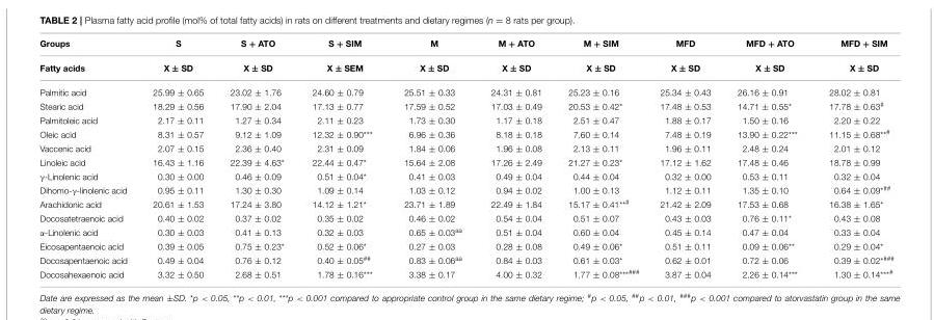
<table><thead><tr><td>Groups</td><td>S</td><td>S + ATO</td><td>S + SIM</td><td>M</td><td>M + ATO</td><td>M + SIM</td><td>MFD</td><td>MFD + ATO</td><td>MFD + SIM</td></tr></thead><tbody><tr><td>Fatty acids</td><td>X ± SD</td><td>X ± SD</td><td>X ± SEM</td><td>X ± SD</td><td>X ± SD</td><td>X ± SD</td><td>X ± SD</td><td>X ± SD</td><td>X ± SD</td></tr><tr><td>Palmitic acid</td><td>25.99 ± 0.65</td><td>23.02 ± 1.76</td><td>24.60 ± 0.79</td><td>25.51 ± 0.33</td><td>24.31 ± 0.81</td><td>25.23 ± 0.16</td><td>25.34 ± 0.43</td><td>26.16 ± 0.91</td><td>28.02 ± 0.81</td></tr><tr><td>Stearic acid</td><td>18.29 ± 0.56</td><td>17.90 ± 2.04</td><td>17.13 ± 0.77</td><td>17.59 ± 0.52</td><td>17.03 ± 0.49</td><td>20.53 ± 0.42*</td><td>17.48 ± 0.53</td><td>14.71 ± 0.55*</td><td>17.78 ± 0.63<sup>#</sup></td></tr><tr><td>Palmitoleic acid</td><td>2.17 ± 0.11</td><td>1.27 ± 0.34</td><td>2.11 ± 0.23</td><td>1.73 ± 0.30</td><td>1.17 ± 0.18</td><td>2.51 ± 0.47</td><td>1.88 ± 0.17</td><td>1.50 ± 0.16</td><td>2.20 ± 0.22</td></tr><tr><td>Oleic acid</td><td>8.31 ± 0.57</td><td>9.12 ± 1.09</td><td>12.32 ± 0.90***</td><td>6.96 ± 0.36</td><td>8.18 ± 0.18</td><td>7.60 ± 0.14</td><td>7.48 ± 0.19</td><td>13.90 ± 0.22***</td><td>11.15 ± 0.68<sup>**#</sup></td></tr><tr><td>Vaccenic acid</td><td>2.07 ± 0.15</td><td>2.36 ± 0.40</td><td>2.31 ± 0.09</td><td>1.84 ± 0.06</td><td>1.96 ± 0.08</td><td>2.13 ± 0.11</td><td>1.96 ± 0.11</td><td>2.48 ± 0.24</td><td>2.01 ± 0.12</td></tr><tr><td>Linoleic acid</td><td>16.43 ± 1.16</td><td>22.39 ± 4.63*</td><td>22.44 ± 0.47*</td><td>15.64 ± 2.08</td><td>17.26 ± 2.49</td><td>21.27 ± 0.23*</td><td>17.12 ± 1.62</td><td>17.48 ± 0.46</td><td>18.78 ± 0.99</td></tr><tr><td>γ-Linolenic acid</td><td>0.30 ± 0.00</td><td>0.46 ± 0.09</td><td>0.51 ± 0.04*</td><td>0.41 ± 0.03</td><td>0.49 ± 0.04</td><td>0.44 ± 0.04</td><td>0.32 ± 0.00</td><td>0.53 ± 0.11</td><td>0.32 ± 0.04</td></tr><tr><td>Dihomo-γ-linolenic acid</td><td>0.95 ± 0.11</td><td>1.30 ± 0.30</td><td>1.09 ± 0.14</td><td>1.03 ± 0.12</td><td>0.94 ± 0.02</td><td>1.00 ± 0.13</td><td>1.12 ± 0.11</td><td>1.35 ± 0.10</td><td>0.64 ± 0.09<sup>*##</sup></td></tr><tr><td>Arachidonic acid</td><td>20.61 ± 1.53</td><td>17.24 ± 3.80</td><td>14.12 ± 1.21*</td><td>23.71 ± 1.89</td><td>22.49 ± 1.84</td><td>15.17 ± 0.41<sup>**#</sup></td><td>21.42 ± 2.09</td><td>17.53 ± 0.68</td><td>16.38 ± 1.65*</td></tr><tr><td>Docosatetraenoic acid</td><td>0.40 ± 0.02</td><td>0.37 ± 0.02</td><td>0.35 ± 0.02</td><td>0.46 ± 0.02</td><td>0.54 ± 0.04</td><td>0.51 ± 0.07</td><td>0.43 ± 0.03</td><td>0.76 ± 0.11*</td><td>0.43 ± 0.08</td></tr><tr><td>α-Linolenic acid</td><td>0.30 ± 0.03</td><td>0.41 ± 0.13</td><td>0.32 ± 0.03</td><td>0.65 ± 0.03<sup>aa</sup></td><td>0.51 ± 0.04</td><td>0.60 ± 0.04</td><td>0.45 ± 0.14</td><td>0.47 ± 0.04</td><td>0.33 ± 0.04</td></tr><tr><td>Eicosapentaenoic acid</td><td>0.39 ± 0.05</td><td>0.75 ± 0.23*</td><td>0.52 ± 0.06*</td><td>0.27 ± 0.03</td><td>0.28 ± 0.08</td><td>0.49 ± 0.06*</td><td>0.51 ± 0.11</td><td>0.09 ± 0.06**</td><td>0.29 ± 0.04*</td></tr><tr><td>Docosapentaenoic acid</td><td>0.49 ± 0.04</td><td>0.76 ± 0.12</td><td>0.40 ± 0.05<sup>##</sup></td><td>0.83 ± 0.06<sup>aa</sup></td><td>0.84 ± 0.03</td><td>0.61 ± 0.03*</td><td>0.62 ± 0.01</td><td>0.72 ± 0.06</td><td>0.39 ± 0.02<sup>*###</sup></td></tr><tr><td>Docosahexaenoic acid</td><td>3.32 ± 0.50</td><td>2.68 ± 0.51</td><td>1.78 ± 0.16***</td><td>3.38 ± 0.17</td><td>4.00 ± 0.32</td><td>1.77 ± 0.08<sup>***###</sup></td><td>3.87 ± 0.04</td><td>2.26 ± 0.14***</td><td>1.30 ± 0.14<sup>***#</sup></td></tr></tbody></table>